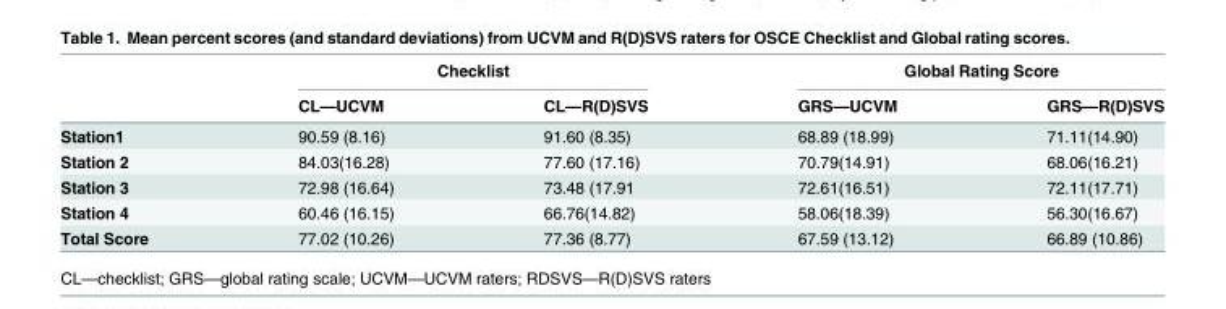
<table><thead><tr><td rowspan="2"></td><td colspan="2">Checklist</td><td colspan="2">Global Rating Score</td></tr><tr><td>CL—UCVM</td><td>CL—R(D)SVS</td><td>GRS—UCVM</td><td>GRS—R(D)SVS</td></tr></thead><tbody><tr><td>Station1</td><td>90.59 (8.16)</td><td>91.60 (8.35)</td><td>68.89 (18.99)</td><td>71.11(14.90)</td></tr><tr><td>Station 2</td><td>84.03(16.28)</td><td>77.60 (17.16)</td><td>70.79(14.91)</td><td>68.06(16.21)</td></tr><tr><td>Station 3</td><td>72.98 (16.64)</td><td>73.48 (17.91</td><td>72.61(16.51)</td><td>72.11(17.71)</td></tr><tr><td>Station 4</td><td>60.46 (16.15)</td><td>66.76(14.82)</td><td>58.06(18.39)</td><td>56.30(16.67)</td></tr><tr><td>Total Score</td><td>77.02 (10.26)</td><td>77.36 (8.77)</td><td>67.59 (13.12)</td><td>66.89 (10.86)</td></tr></tbody></table>